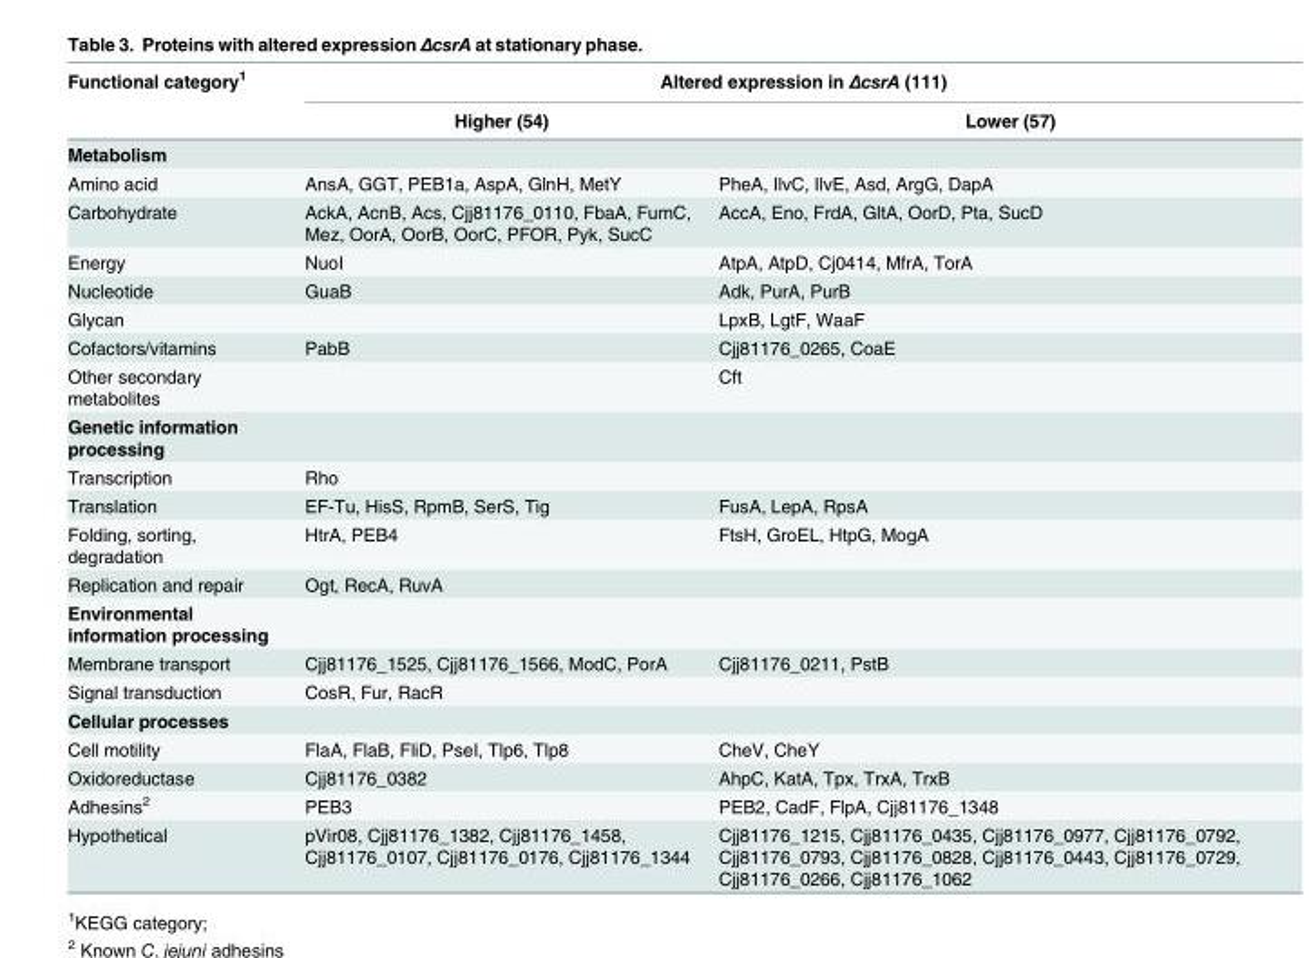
<table><thead><tr><td rowspan="2">Functional category<sup>1</sup></td><td colspan="2">Altered expression in ΔcsrA (111)</td></tr><tr><td>Higher (54)</td><td>Lower (57)</td></tr></thead><tbody><tr><td colspan="3">Metabolism</td></tr><tr><td>Amino acid</td><td>AnsA, GGT, PEB1a, AspA, GlnH, MetY</td><td>PheA, IlvC, IlvE, Asd, ArgG, DapA</td></tr><tr><td>Carbohydrate</td><td>AckA, AcnB, Acs, Cjj81176_0110, FbaA, FumC, Mez, OorA, OorB, OorC, PFOR, Pyk, SucC</td><td>AccA, Eno, FrdA, GltA, OorD, Pta, SucD</td></tr><tr><td>Energy</td><td>NuoI</td><td>AtpA, AtpD, Cj0414, MfrA, TorA</td></tr><tr><td>Nucleotide</td><td>GuaB</td><td>Adk, PurA, PurB</td></tr><tr><td>Glycan</td><td></td><td>LpxB, LgtF, WaaF</td></tr><tr><td>Cofactors/vitamins</td><td>PabB</td><td>Cjj81176_0265, CoaE</td></tr><tr><td>Other secondary metabolites</td><td></td><td>Cft</td></tr><tr><td colspan="3">Genetic information processing</td></tr><tr><td>Transcription</td><td>Rho</td><td></td></tr><tr><td>Translation</td><td>EF-Tu, HisS, RpmB, SerS, Tig</td><td>FusA, LepA, RpsA</td></tr><tr><td>Folding, sorting, degradation</td><td>HtrA, PEB4</td><td>FtsH, GroEL, HtpG, MogA</td></tr><tr><td>Replication and repair</td><td>Ogt, RecA, RuvA</td><td></td></tr><tr><td colspan="3">Environmental information processing</td></tr><tr><td>Membrane transport</td><td>Cjj81176_1525, Cjj81176_1566, ModC, PorA</td><td>Cjj81176_0211, PstB</td></tr><tr><td>Signal transduction</td><td>CosR, Fur, RacR</td><td></td></tr><tr><td colspan="3">Cellular processes</td></tr><tr><td>Cell motility</td><td>FlaA, FlaB, FliD, PseI, Tlp6, Tlp8</td><td>CheV, CheY</td></tr><tr><td>Oxidoreductase</td><td>Cjj81176_0382</td><td>AhpC, KatA, Tpx, TrxA, TrxB</td></tr><tr><td>Adhesins<sup>2</sup></td><td>PEB3</td><td>PEB2, CadF, FlpA, Cjj81176_1348</td></tr><tr><td>Hypothetical</td><td>pVir08, Cjj81176_1382, Cjj81176_1458, Cjj81176_0107, Cjj81176_0176, Cjj81176_1344</td><td>Cjj81176_1215, Cjj81176_0435, Cjj81176_0977, Cjj81176_0792, Cjj81176_0793, Cjj81176_0828, Cjj81176_0443, Cjj81176_0729, Cjj81176_0266, Cjj81176_1062</td></tr></tbody></table>